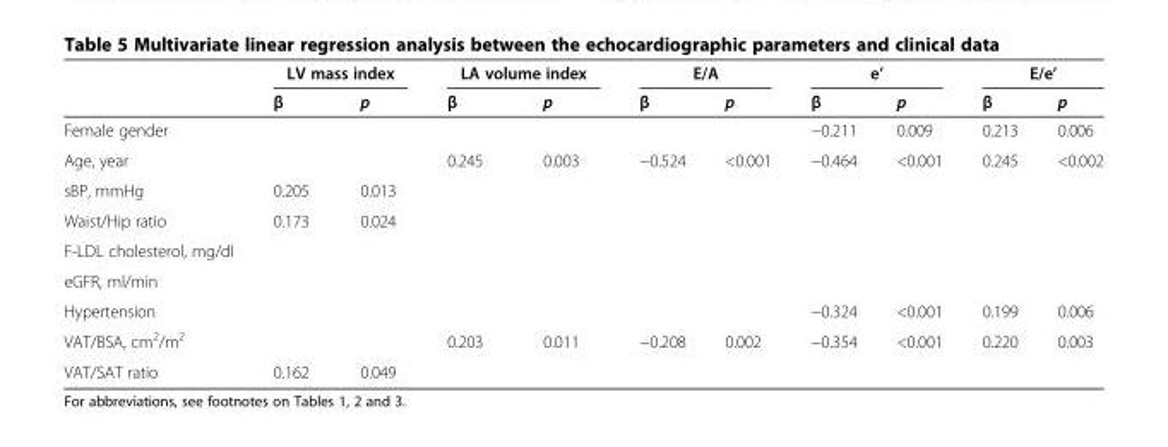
<table><thead><tr><td rowspan="2"></td><td colspan="2">LV mass index</td><td colspan="2">LA volume index</td><td colspan="2">E/A</td><td colspan="2">e’</td><td colspan="2">E/e’</td></tr><tr><td>β</td><td>p</td><td>β</td><td>p</td><td>β</td><td>p</td><td>β</td><td>p</td><td>β</td><td>p</td></tr></thead><tbody><tr><td>Female gender</td><td></td><td></td><td></td><td></td><td></td><td></td><td>−0.211</td><td>0.009</td><td>0.213</td><td>0.006</td></tr><tr><td>Age, year</td><td></td><td></td><td>0.245</td><td>0.003</td><td>−0.524</td><td>&lt;0.001</td><td>−0.464</td><td>&lt;0.001</td><td>0.245</td><td>&lt;0.002</td></tr><tr><td>sBP, mmHg</td><td>0.205</td><td>0.013</td><td></td><td></td><td></td><td></td><td></td><td></td><td></td><td></td></tr><tr><td>Waist/Hip ratio</td><td>0.173</td><td>0.024</td><td></td><td></td><td></td><td></td><td></td><td></td><td></td><td></td></tr><tr><td colspan="11">F-LDL cholesterol, mg/dl</td></tr><tr><td colspan="11">eGFR, ml/min</td></tr><tr><td>Hypertension</td><td></td><td></td><td></td><td></td><td></td><td></td><td>−0.324</td><td>&lt;0.001</td><td>0.199</td><td>0.006</td></tr><tr><td>VAT/BSA, cm<sup>2</sup>/m<sup>2</sup></td><td></td><td></td><td>0.203</td><td>0.011</td><td>−0.208</td><td>0.002</td><td>−0.354</td><td>&lt;0.001</td><td>0.220</td><td>0.003</td></tr><tr><td>VAT/SAT ratio</td><td>0.162</td><td>0.049</td><td></td><td></td><td></td><td></td><td></td><td></td><td></td><td></td></tr></tbody></table>